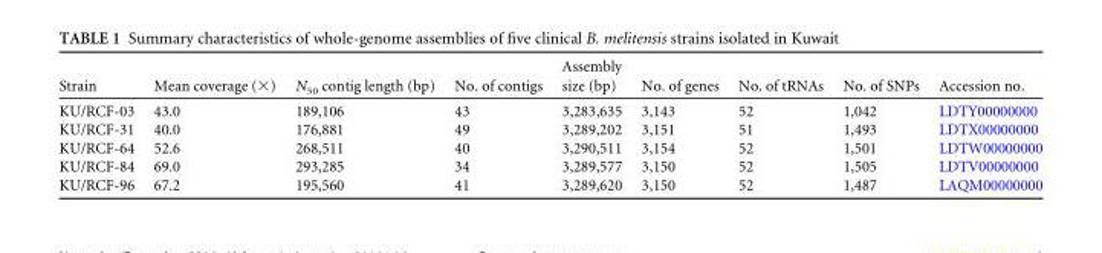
<table><thead><tr><td>Strain</td><td>Mean coverage (×)</td><td>N<sub>50</sub> contig length (bp)</td><td>No. of contigs</td><td>Assembly size (bp)</td><td>No. of genes</td><td>No. of tRNAs</td><td>No. of SNPs</td><td>Accession no.</td></tr></thead><tbody><tr><td>KU/RCF-03</td><td>43.0</td><td>189,106</td><td>43</td><td>3,283,635</td><td>3,143</td><td>52</td><td>1,042</td><td>LDTY00000000</td></tr><tr><td>KU/RCF-31</td><td>40.0</td><td>176,881</td><td>49</td><td>3,289,202</td><td>3,151</td><td>51</td><td>1,493</td><td>LDTX00000000</td></tr><tr><td>KU/RCF-64</td><td>52.6</td><td>268,511</td><td>40</td><td>3,290,511</td><td>3,154</td><td>52</td><td>1,501</td><td>LDTW00000000</td></tr><tr><td>KU/RCF-84</td><td>69.0</td><td>293,285</td><td>34</td><td>3,289,577</td><td>3,150</td><td>52</td><td>1,505</td><td>LDTV00000000</td></tr><tr><td>KU/RCF-96</td><td>67.2</td><td>195,560</td><td>41</td><td>3,289,620</td><td>3,150</td><td>52</td><td>1,487</td><td>LAQM00000000</td></tr></tbody></table>